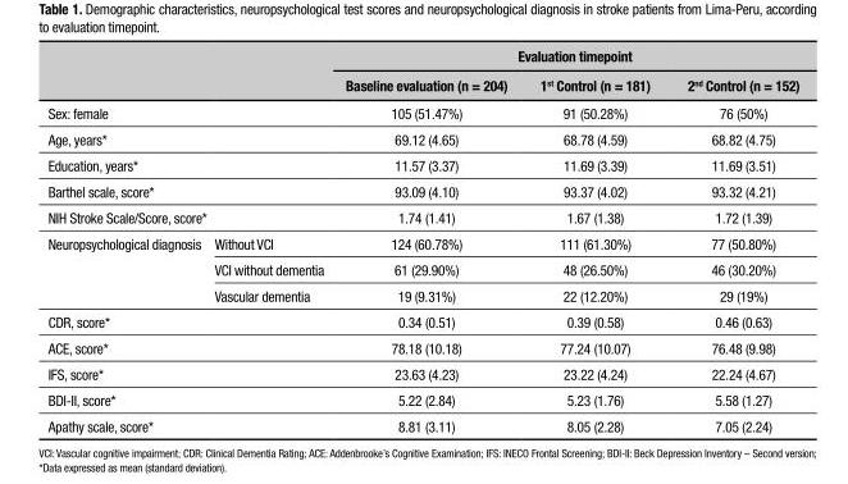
<table><thead><tr><td rowspan="2"></td><td rowspan="2"></td><td colspan="3">Evaluation timepoint</td></tr><tr><td>Baseline evaluation (n = 204)</td><td>1<sup>st</sup> Control (n = 181)</td><td>2<sup>nd</sup> Control (n = 152)</td></tr></thead><tbody><tr><td>Sex: female</td><td></td><td>105 (51.47%)</td><td>91 (50.28%)</td><td>76 (50%)</td></tr><tr><td>Age, years*</td><td></td><td>69.12 (4.65)</td><td>68.78 (4.59)</td><td>68.82 (4.75)</td></tr><tr><td>Education, years*</td><td></td><td>11.57 (3.37)</td><td>11.69 (3.39)</td><td>11.69 (3.51)</td></tr><tr><td>Barthel scale, score*</td><td></td><td>93.09 (4.10)</td><td>93.37 (4.02)</td><td>93.32 (4.21)</td></tr><tr><td colspan="2">NIH Stroke Scale/Score, score*</td><td>1.74 (1.41)</td><td>1.67 (1.38)</td><td>1.72 (1.39)</td></tr><tr><td rowspan="3">Neuropsychological diagnosis</td><td>Without VCI</td><td>124 (60.78%)</td><td>111 (61.30%)</td><td>77 (50.80%)</td></tr><tr><td>VCI without dementia</td><td>61 (29.90%)</td><td>48 (26.50%)</td><td>46 (30.20%)</td></tr><tr><td>Vascular dementia</td><td>19 (9.31%)</td><td>22 (12.20%)</td><td>29 (19%)</td></tr><tr><td>CDR, score*</td><td></td><td>0.34 (0.51)</td><td>0.39 (0.58)</td><td>0.46 (0.63)</td></tr><tr><td>ACE, score*</td><td></td><td>78.18 (10.18)</td><td>77.24 (10.07)</td><td>76.48 (9.98)</td></tr><tr><td>IFS, score*</td><td></td><td>23.63 (4.23)</td><td>23.22 (4.24)</td><td>22.24 (4.67)</td></tr><tr><td>BDI-II, score*</td><td></td><td>5.22 (2.84)</td><td>5.23 (1.76)</td><td>5.58 (1.27)</td></tr><tr><td>Apathy scale, score*</td><td></td><td>8.81 (3.11)</td><td>8.05 (2.28)</td><td>7.05 (2.24)</td></tr></tbody></table>